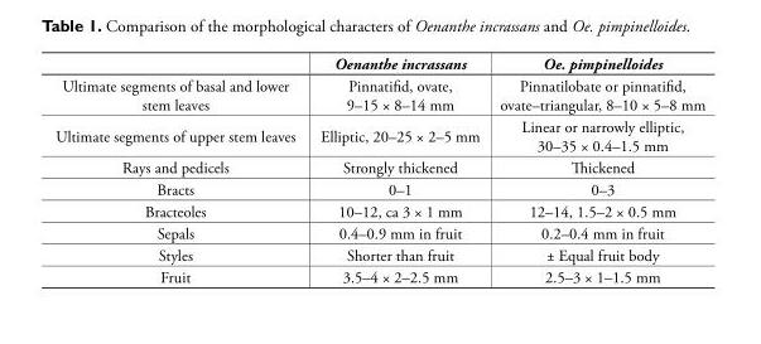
<table><thead><tr><td></td><td>Oenanthe incrassans</td><td>Oe. pimpinelloides</td></tr></thead><tbody><tr><td>Ultimate segments of basal and lower stem leaves</td><td>Pinnatifi d, ovate, 9–15 × 8–14 mm</td><td>Pinnatilobate or pinnatifi d, ovate–triangular, 8–10 × 5–8 mm</td></tr><tr><td>Ultimate segments of upper stem leaves</td><td>Elliptic, 20–25 × 2–5 mm</td><td>Linear or narrowly elliptic, 30–35 × 0.4–1.5 mm</td></tr><tr><td>Rays and pedicels</td><td>Strongly thickened</td><td>Th ickened</td></tr><tr><td>Bracts</td><td>0–1</td><td>0–3</td></tr><tr><td>Bracteoles</td><td>10–12, ca 3 × 1 mm</td><td>12–14, 1.5–2 × 0.5 mm</td></tr><tr><td>Sepals</td><td>0.4–0.9 mm in fruit</td><td>0.2–0.4 mm in fruit</td></tr><tr><td>Styles</td><td>Shorter than fruit</td><td>± Equal fruit body</td></tr><tr><td>Fruit</td><td>3.5–4 × 2–2.5 mm</td><td>2.5–3 × 1–1.5 mm</td></tr></tbody></table>